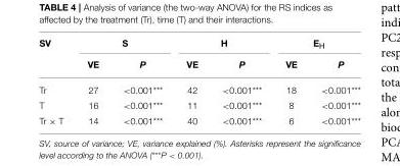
<table><thead><tr><td rowspan="2">SV</td><td colspan="2">S</td><td colspan="2">H</td><td colspan="2">E<sub>H</sub></td></tr><tr><td>VE</td><td>P</td><td>VE</td><td>P</td><td>VE</td><td>P</td></tr></thead><tbody><tr><td>Tr</td><td>27</td><td>&lt;0.001***</td><td>42</td><td>&lt;0.001***</td><td>18</td><td>&lt;0.001***</td></tr><tr><td>T</td><td>16</td><td>&lt;0.001***</td><td>11</td><td>&lt;0.001***</td><td>8</td><td>&lt;0.001***</td></tr><tr><td>Tr × T</td><td>14</td><td>&lt;0.001***</td><td>40</td><td>&lt;0.001***</td><td>6</td><td>&lt;0.001***</td></tr></tbody></table>